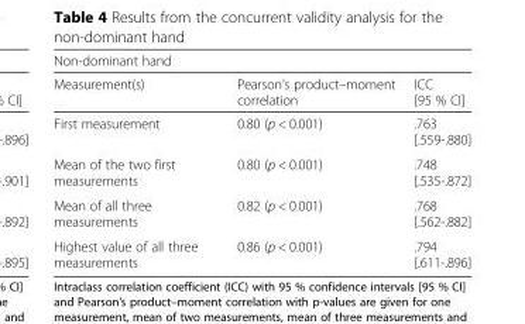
<table><thead><tr><td colspan="3">Non-dominant hand</td></tr><tr><td>Measurement(s)</td><td>Pearson’s product–moment correlation</td><td>ICC [95 % CI]</td></tr></thead><tbody><tr><td>First measurement</td><td>0.80 (p &lt; 0.001)</td><td>.763 [.559-.880]</td></tr><tr><td>Mean of the two first measurements</td><td>0.80 (p &lt; 0.001)</td><td>.748 [.535-.872]</td></tr><tr><td>Mean of all three measurements</td><td>0.82 (p &lt; 0.001)</td><td>.768 [.562-.882]</td></tr><tr><td>Highest value of all three measurements</td><td>0.86 (p &lt; 0.001)</td><td>.794 [.611-.896]</td></tr></tbody></table>